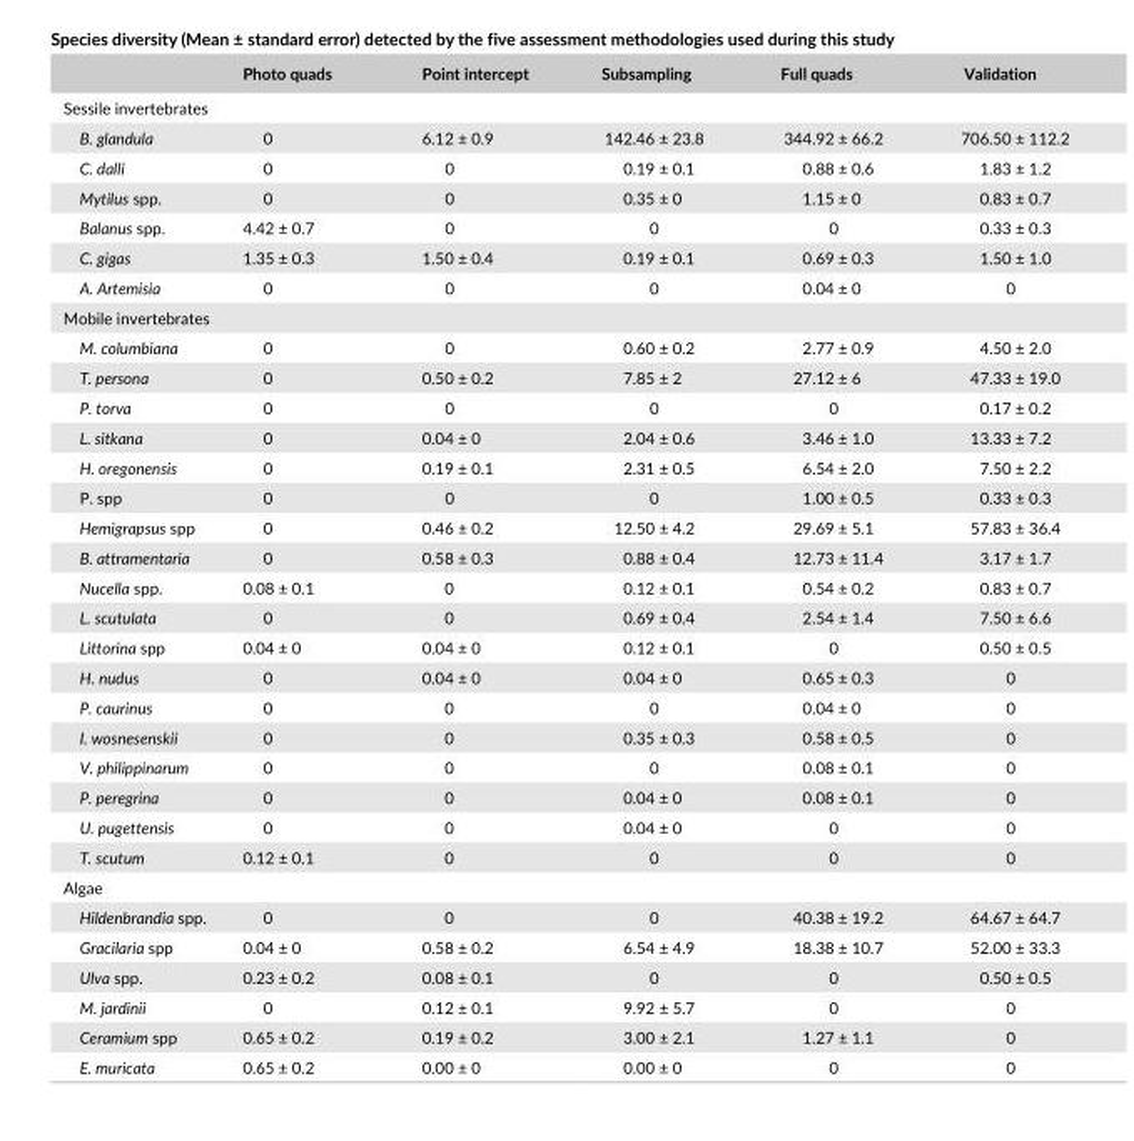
<table><thead><tr><td></td><td>Photo quads</td><td>Point intercept</td><td>Subsampling</td><td>Full quads</td><td>Validation</td></tr></thead><tbody><tr><td colspan="6">Sessile invertebrates</td></tr><tr><td>B. glandula</td><td>0</td><td>6.12 ± 0.9</td><td>142.46 ± 23.8</td><td>344.92 ± 66.2</td><td>706.50 ± 112.2</td></tr><tr><td>C. dalli</td><td>0</td><td>0</td><td>0.19 ± 0.1</td><td>0.88 ± 0.6</td><td>1.83 ± 1.2</td></tr><tr><td>Mytilus spp.</td><td>0</td><td>0</td><td>0.35 ± 0</td><td>1.15 ± 0</td><td>0.83 ± 0.7</td></tr><tr><td>Balanus spp.</td><td>4.42 ± 0.7</td><td>0</td><td>0</td><td>0</td><td>0.33 ± 0.3</td></tr><tr><td>C. gigas</td><td>1.35 ± 0.3</td><td>1.50 ± 0.4</td><td>0.19 ± 0.1</td><td>0.69 ± 0.3</td><td>1.50 ± 1.0</td></tr><tr><td>A. Artemisia</td><td>0</td><td>0</td><td>0</td><td>0.04 ± 0</td><td>0</td></tr><tr><td colspan="6">Mobile invertebrates</td></tr><tr><td>M. columbiana</td><td>0</td><td>0</td><td>0.60 ± 0.2</td><td>2.77 ± 0.9</td><td>4.50 ± 2.0</td></tr><tr><td>T. persona</td><td>0</td><td>0.50 ± 0.2</td><td>7.85 ± 2</td><td>27.12 ± 6</td><td>47.33 ± 19.0</td></tr><tr><td>P. torva</td><td>0</td><td>0</td><td>0</td><td>0</td><td>0.17 ± 0.2</td></tr><tr><td>L. sitkana</td><td>0</td><td>0.04 ± 0</td><td>2.04 ± 0.6</td><td>3.46 ± 1.0</td><td>13.33 ± 7.2</td></tr><tr><td>H. oregonensis</td><td>0</td><td>0.19 ± 0.1</td><td>2.31 ± 0.5</td><td>6.54 ± 2.0</td><td>7.50 ± 2.2</td></tr><tr><td>P. spp</td><td>0</td><td>0</td><td>0</td><td>1.00 ± 0.5</td><td>0.33 ± 0.3</td></tr><tr><td>Hemigrapsus spp</td><td>0</td><td>0.46 ± 0.2</td><td>12.50 ± 4.2</td><td>29.69 ± 5.1</td><td>57.83 ± 36.4</td></tr><tr><td>B. attramentaria</td><td>0</td><td>0.58 ± 0.3</td><td>0.88 ± 0.4</td><td>12.73 ± 11.4</td><td>3.17 ± 1.7</td></tr><tr><td>Nucella spp.</td><td>0.08 ± 0.1</td><td>0</td><td>0.12 ± 0.1</td><td>0.54 ± 0.2</td><td>0.83 ± 0.7</td></tr><tr><td>L. scutulata</td><td>0</td><td>0</td><td>0.69 ± 0.4</td><td>2.54 ± 1.4</td><td>7.50 ± 6.6</td></tr><tr><td>Littorina spp</td><td>0.04 ± 0</td><td>0.04 ± 0</td><td>0.12 ± 0.1</td><td>0</td><td>0.50 ± 0.5</td></tr><tr><td>H. nudus</td><td>0</td><td>0.04 ± 0</td><td>0.04 ± 0</td><td>0.65 ± 0.3</td><td>0</td></tr><tr><td>P. caurinus</td><td>0</td><td>0</td><td>0</td><td>0.04 ± 0</td><td>0</td></tr><tr><td>I. wosnesenskii</td><td>0</td><td>0</td><td>0.35 ± 0.3</td><td>0.58 ± 0.5</td><td>0</td></tr><tr><td>V. philippinarum</td><td>0</td><td>0</td><td>0</td><td>0.08 ± 0.1</td><td>0</td></tr><tr><td>P. peregrina</td><td>0</td><td>0</td><td>0.04 ± 0</td><td>0.08 ± 0.1</td><td>0</td></tr><tr><td>U. pugettensis</td><td>0</td><td>0</td><td>0.04 ± 0</td><td>0</td><td>0</td></tr><tr><td>T. scutum</td><td>0.12 ± 0.1</td><td>0</td><td>0</td><td>0</td><td>0</td></tr><tr><td colspan="6">Algae</td></tr><tr><td>Hildenbrandia spp.</td><td>0</td><td>0</td><td>0</td><td>40.38 ± 19.2</td><td>64.67 ± 64.7</td></tr><tr><td>Gracilaria spp</td><td>0.04 ± 0</td><td>0.58 ± 0.2</td><td>6.54 ± 4.9</td><td>18.38 ± 10.7</td><td>52.00 ± 33.3</td></tr><tr><td>Ulva spp.</td><td>0.23 ± 0.2</td><td>0.08 ± 0.1</td><td>0</td><td>0</td><td>0.50 ± 0.5</td></tr><tr><td>M. jardinii</td><td>0</td><td>0.12 ± 0.1</td><td>9.92 ± 5.7</td><td>0</td><td>0</td></tr><tr><td>Ceramium spp</td><td>0.65 ± 0.2</td><td>0.19 ± 0.2</td><td>3.00 ± 2.1</td><td>1.27 ± 1.1</td><td>0</td></tr><tr><td>E. muricata</td><td>0.65 ± 0.2</td><td>0.00 ± 0</td><td>0.00 ± 0</td><td>0</td><td>0</td></tr></tbody></table>